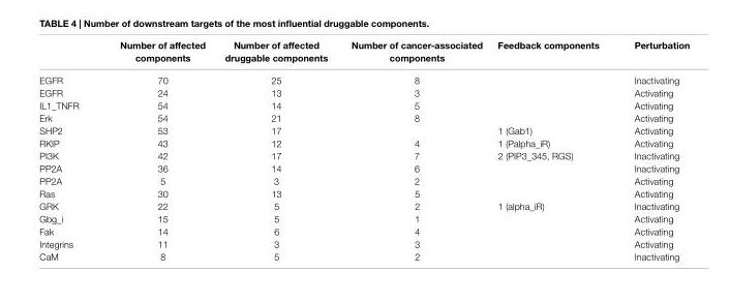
<table><thead><tr><td></td><td>number of affected components</td><td>number of affected druggable components</td><td>number of cancer-associated components</td><td>Feedback components</td><td>Perturbation</td></tr></thead><tbody><tr><td>EGFR</td><td>70</td><td>25</td><td>8</td><td></td><td>Inactivating</td></tr><tr><td>EGFR</td><td>24</td><td>13</td><td>3</td><td></td><td>Activating</td></tr><tr><td>IL1_TNFR</td><td>54</td><td>14</td><td>5</td><td></td><td>Activating</td></tr><tr><td>Erk</td><td>54</td><td>21</td><td>8</td><td></td><td>Activating</td></tr><tr><td>SHP2</td><td>53</td><td>17</td><td></td><td>1 (Gab1)</td><td>Activating</td></tr><tr><td>RKIP</td><td>43</td><td>12</td><td>4</td><td>1 (Palpha_iR)</td><td>Activating</td></tr><tr><td>PI3K</td><td>42</td><td>17</td><td>7</td><td>2 (PIP3_345, RGS)</td><td>Inactivating</td></tr><tr><td>PP2A</td><td>36</td><td>14</td><td>6</td><td></td><td>Inactivating</td></tr><tr><td>PP2A</td><td>5</td><td>3</td><td>2</td><td></td><td>Activating</td></tr><tr><td>Ras</td><td>30</td><td>13</td><td>5</td><td></td><td>Activating</td></tr><tr><td>GRK</td><td>22</td><td>5</td><td>2</td><td>1 (alpha_iR)</td><td>Inactivating</td></tr><tr><td>Gbg_i</td><td>15</td><td>5</td><td>1</td><td></td><td>Activating</td></tr><tr><td>Fak</td><td>14</td><td>6</td><td>4</td><td></td><td>Activating</td></tr><tr><td>Integrins</td><td>11</td><td>3</td><td>3</td><td></td><td>Activating</td></tr><tr><td>CaM</td><td>8</td><td>5</td><td>2</td><td></td><td>Inactivating</td></tr></tbody></table>